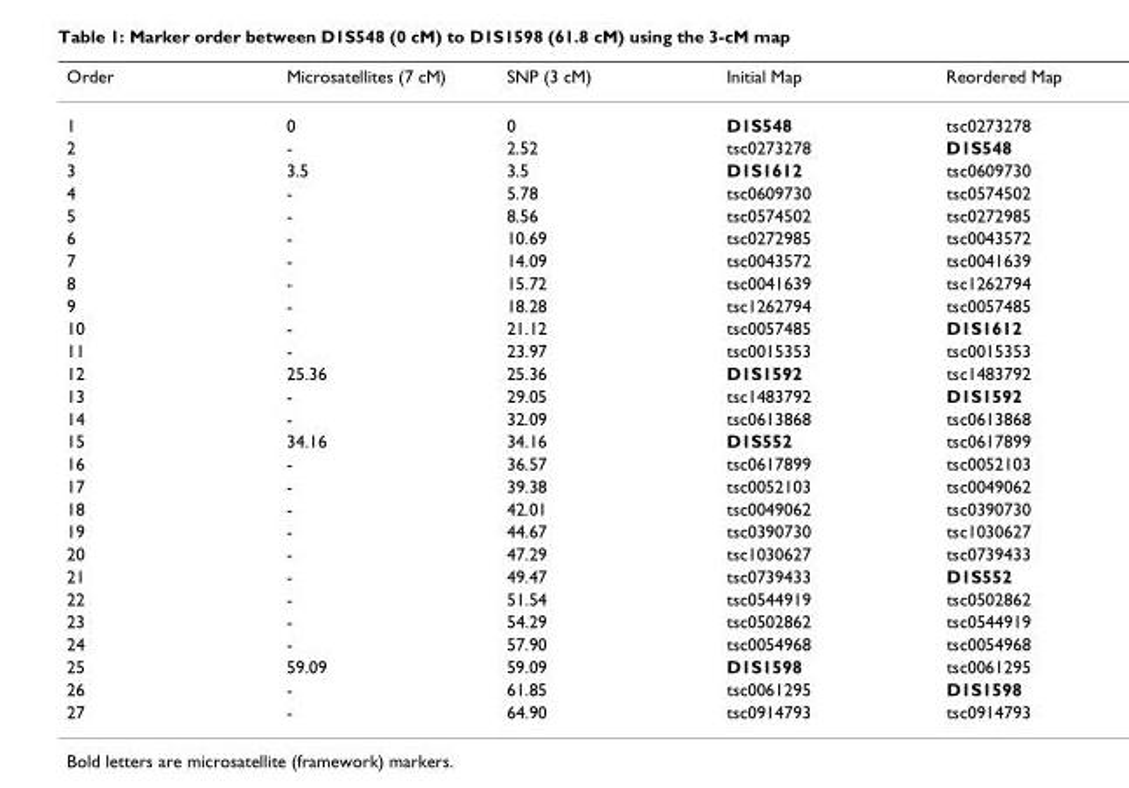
<table><thead><tr><td>Order</td><td>Microsatellites (7 cM)</td><td>SNP (3 cM)</td><td>Initial Map</td><td>Reordered Map</td></tr></thead><tbody><tr><td>1</td><td>0</td><td>0</td><td>D1S548</td><td>tsc0273278</td></tr><tr><td>2</td><td>-</td><td>2.52</td><td>tsc0273278</td><td>D1S548</td></tr><tr><td>3</td><td>3.5</td><td>3.5</td><td>D1S1612</td><td>tsc0609730</td></tr><tr><td>4</td><td>-</td><td>5.78</td><td>tsc0609730</td><td>tsc0574502</td></tr><tr><td>5</td><td>-</td><td>8.56</td><td>tsc0574502</td><td>tsc0272985</td></tr><tr><td>6</td><td>-</td><td>10.69</td><td>tsc0272985</td><td>tsc0043572</td></tr><tr><td>7</td><td>-</td><td>14.09</td><td>tsc0043572</td><td>tsc0041639</td></tr><tr><td>8</td><td>-</td><td>15.72</td><td>tsc0041639</td><td>tsc1262794</td></tr><tr><td>9</td><td>-</td><td>18.28</td><td>tsc1262794</td><td>tsc0057485</td></tr><tr><td>10</td><td>-</td><td>21.12</td><td>tsc0057485</td><td>D1S1612</td></tr><tr><td>11</td><td>-</td><td>23.97</td><td>tsc0015353</td><td>tsc0015353</td></tr><tr><td>12</td><td>25.36</td><td>25.36</td><td>D1S1592</td><td>tsc1483792</td></tr><tr><td>13</td><td>-</td><td>29.05</td><td>tsc1483792</td><td>D1S1592</td></tr><tr><td>14</td><td>-</td><td>32.09</td><td>tsc0613868</td><td>tsc0613868</td></tr><tr><td>15</td><td>34.16</td><td>34.16</td><td>D1S552</td><td>tsc0617899</td></tr><tr><td>16</td><td>-</td><td>36.57</td><td>tsc0617899</td><td>tsc0052103</td></tr><tr><td>17</td><td>-</td><td>39.38</td><td>tsc0052103</td><td>tsc0049062</td></tr><tr><td>18</td><td>-</td><td>42.01</td><td>tsc0049062</td><td>tsc0390730</td></tr><tr><td>19</td><td>-</td><td>44.67</td><td>tsc0390730</td><td>tsc1030627</td></tr><tr><td>20</td><td>-</td><td>47.29</td><td>tsc1030627</td><td>tsc0739433</td></tr><tr><td>21</td><td>-</td><td>49.47</td><td>tsc0739433</td><td>D1S552</td></tr><tr><td>22</td><td>-</td><td>51.54</td><td>tsc0544919</td><td>tsc0502862</td></tr><tr><td>23</td><td>-</td><td>54.29</td><td>tsc0502862</td><td>tsc0544919</td></tr><tr><td>24</td><td>-</td><td>57.90</td><td>tsc0054968</td><td>tsc0054968</td></tr><tr><td>25</td><td>59.09</td><td>59.09</td><td>D1S1598</td><td>tsc0061295</td></tr><tr><td>26</td><td>-</td><td>61.85</td><td>tsc0061295</td><td>D1S1598</td></tr><tr><td>27</td><td>-</td><td>64.90</td><td>tsc0914793</td><td>tsc0914793</td></tr></tbody></table>